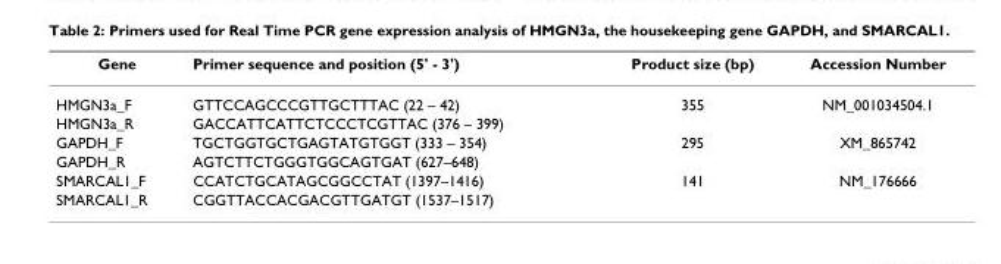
<table><thead><tr><td>Gene</td><td>Primer sequence and position (5&#x27; - 3&#x27;)</td><td>Product size (bp)</td><td>Accession Number</td></tr></thead><tbody><tr><td>HMGN3a_F</td><td>GTTCCAGCCCGTTGCTTTAC (22 – 42)</td><td>355</td><td>NM_001034504.1</td></tr><tr><td>HMGN3a_R</td><td>GACCATTCATTCTCCCTCGTTAC (376 – 399)</td><td></td><td></td></tr><tr><td>GAPDH_F</td><td>TGCTGGTGCTGAGTATGTGGT (333 – 354)</td><td>295</td><td>XM_865742</td></tr><tr><td>GAPDH_R</td><td>AGTCTTCTGGGTGGCAGTGAT (627–648)</td><td></td><td></td></tr><tr><td>SMARCAL1_F</td><td>CCATCTGCATAGCGGCCTAT (1397–1416)</td><td>141</td><td>NM_176666</td></tr><tr><td>SMARCAL1_R</td><td>CGGTTACCACGACGTTGATGT (1537–1517)</td><td></td><td></td></tr></tbody></table>